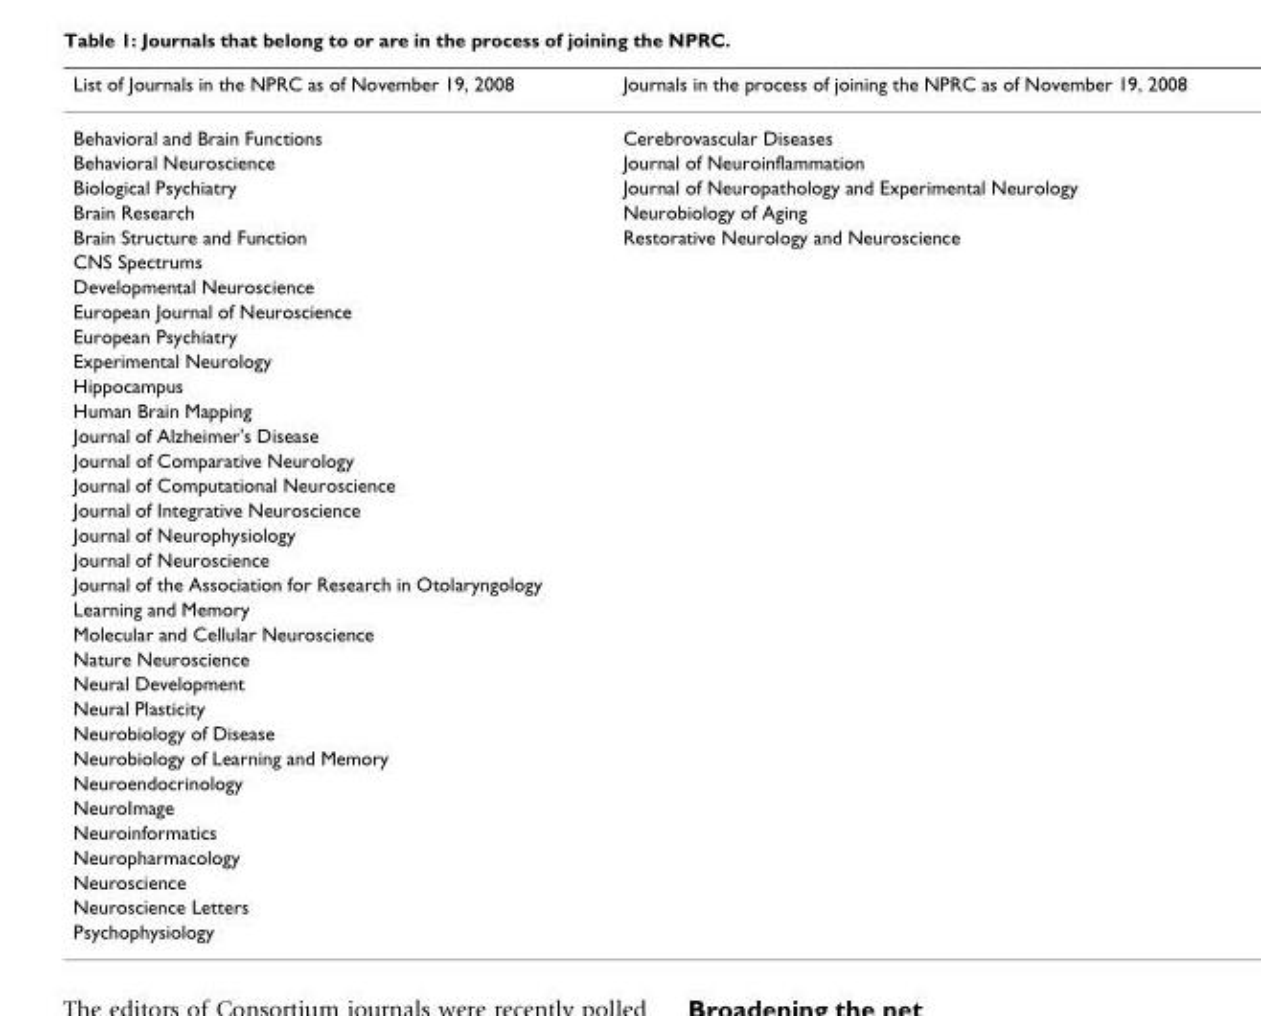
<table><thead><tr><td>List of Journals in the NPRC as of November 19, 2008</td><td>Journals in the process of joining the NPRC as of November 19, 2008</td></tr></thead><tbody><tr><td>Behavioral and Brain Functions</td><td>Cerebrovascular Diseases</td></tr><tr><td>Behavioral Neuroscience</td><td>Journal of Neuroinflammation</td></tr><tr><td>Biological Psychiatry</td><td>Journal of Neuropathology and Experimental Neurology</td></tr><tr><td>Brain Research</td><td>Neurobiology of Aging</td></tr><tr><td>Brain Structure and Function</td><td>Restorative Neurology and Neuroscience</td></tr><tr><td colspan="2">CNS Spectrums</td></tr><tr><td colspan="2">Developmental Neuroscience</td></tr><tr><td colspan="2">European Journal of Neuroscience</td></tr><tr><td colspan="2">European Psychiatry</td></tr><tr><td colspan="2">Experimental Neurology</td></tr><tr><td colspan="2">Hippocampus</td></tr><tr><td colspan="2">Human Brain Mapping</td></tr><tr><td colspan="2">Journal of Alzheimer&#x27;s Disease</td></tr><tr><td colspan="2">Journal of Comparative Neurology</td></tr><tr><td colspan="2">Journal of Computational Neuroscience</td></tr><tr><td colspan="2">Journal of Integrative Neuroscience</td></tr><tr><td colspan="2">Journal of Neurophysiology</td></tr><tr><td colspan="2">Journal of Neuroscience</td></tr><tr><td colspan="2">Journal of the Association for Research in Otolaryngology</td></tr><tr><td colspan="2">Learning and Memory</td></tr><tr><td colspan="2">Molecular and Cellular Neuroscience</td></tr><tr><td colspan="2">Nature Neuroscience</td></tr><tr><td colspan="2">Neural Development</td></tr><tr><td colspan="2">Neural Plasticity</td></tr><tr><td colspan="2">Neurobiology of Disease</td></tr><tr><td colspan="2">Neurobiology of Learning and Memory</td></tr><tr><td colspan="2">Neuroendocrinology</td></tr><tr><td colspan="2">NeuroImage</td></tr><tr><td colspan="2">Neuroinformatics</td></tr><tr><td colspan="2">Neuropharmacology</td></tr><tr><td colspan="2">Neuroscience</td></tr><tr><td colspan="2">Neuroscience Letters</td></tr><tr><td>Psychophysiology</td><td></td></tr></tbody></table>